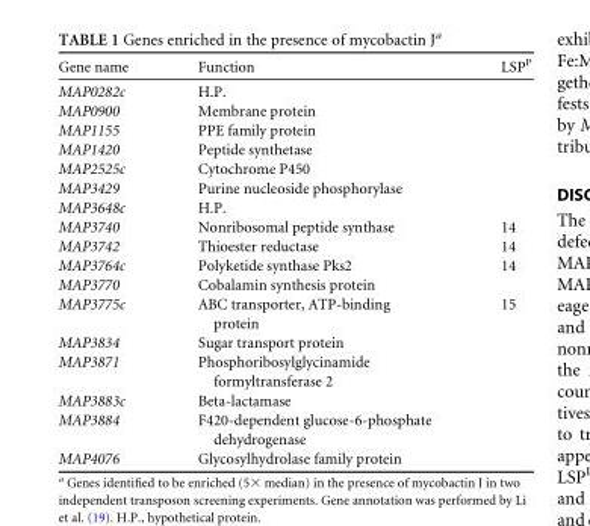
<table><thead><tr><td>Gene name</td><td>Function</td><td>LSP<sup>P</sup></td></tr></thead><tbody><tr><td>MAP0282c</td><td>H.P.</td><td></td></tr><tr><td>MAP0900</td><td>Membrane protein</td><td></td></tr><tr><td>MAP1155</td><td>PPE family protein</td><td></td></tr><tr><td>MAP1420</td><td>Peptide synthetase</td><td></td></tr><tr><td>MAP2525c</td><td>Cytochrome P450</td><td></td></tr><tr><td>MAP3429</td><td>Purine nucleoside phosphorylase</td><td></td></tr><tr><td>MAP3648c</td><td>H.P.</td><td></td></tr><tr><td>MAP3740</td><td>Nonribosomal peptide synthase</td><td>14</td></tr><tr><td>MAP3742</td><td>Thioester reductase</td><td>14</td></tr><tr><td>MAP3764c</td><td>Polyketide synthase Pks2</td><td>14</td></tr><tr><td>MAP3770</td><td>Cobalamin synthesis protein</td><td></td></tr><tr><td>MAP3775c</td><td>ABC transporter, ATP-binding protein</td><td>15</td></tr><tr><td>MAP3834</td><td>Sugar transport protein</td><td></td></tr><tr><td>MAP3871</td><td>Phosphoribosylglycinamide formyltransferase 2</td><td></td></tr><tr><td>MAP3883c</td><td>Beta-lactamase</td><td></td></tr><tr><td>MAP3884</td><td>F420-dependent glucose-6-phosphate dehydrogenase</td><td></td></tr><tr><td>MAP4076</td><td>Glycosylhydrolase family protein</td><td></td></tr></tbody></table>